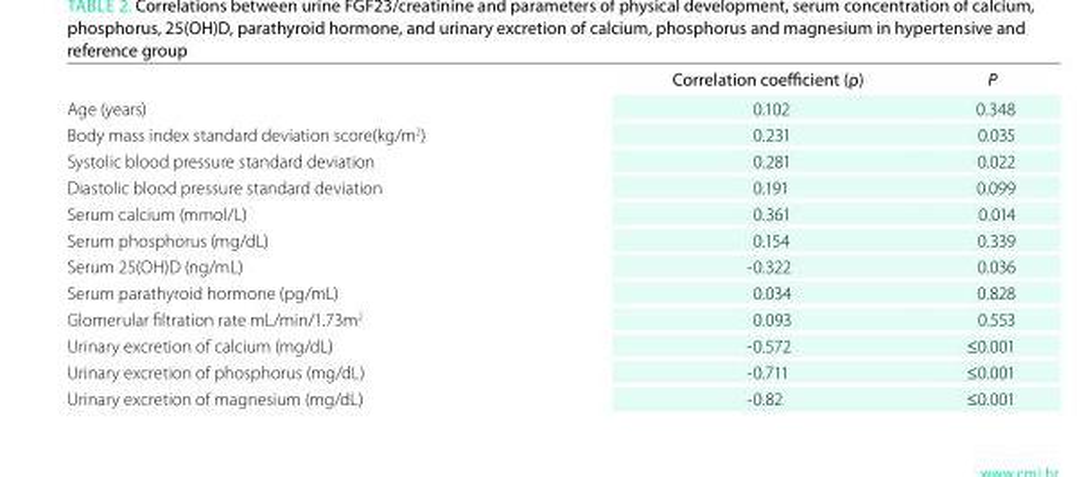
<table><thead><tr><td></td><td>Correlation coefficient (ρ)</td><td>P</td></tr></thead><tbody><tr><td>Age (years)</td><td>0.102</td><td>0.348</td></tr><tr><td>Body mass index standard deviation score(kg/m<sup>2</sup>)</td><td>0.231</td><td>0.035</td></tr><tr><td>Systolic blood pressure standard deviation</td><td>0.281</td><td>0.022</td></tr><tr><td>Diastolic blood pressure standard deviation</td><td>0.191</td><td>0.099</td></tr><tr><td>Serum calcium (mmol/L)</td><td>0.361</td><td>0.014</td></tr><tr><td>Serum phosphorus (mg/dL)</td><td>0.154</td><td>0.339</td></tr><tr><td>Serum 25(OH)D (ng/mL)</td><td>-0.322</td><td>0.036</td></tr><tr><td>Serum parathyroid hormone (pg/mL)</td><td>0.034</td><td>0.828</td></tr><tr><td>Glomerular filtration rate mL/min/1.73m<sup>2</sup></td><td>0.093</td><td>0.553</td></tr><tr><td>Urinary excretion of calcium (mg/dL)</td><td>-0.572</td><td>≤0.001</td></tr><tr><td>Urinary excretion of phosphorus (mg/dL)</td><td>-0.711</td><td>≤0.001</td></tr><tr><td>Urinary excretion of magnesium (mg/dL)</td><td>-0.82</td><td>≤0.001</td></tr></tbody></table>